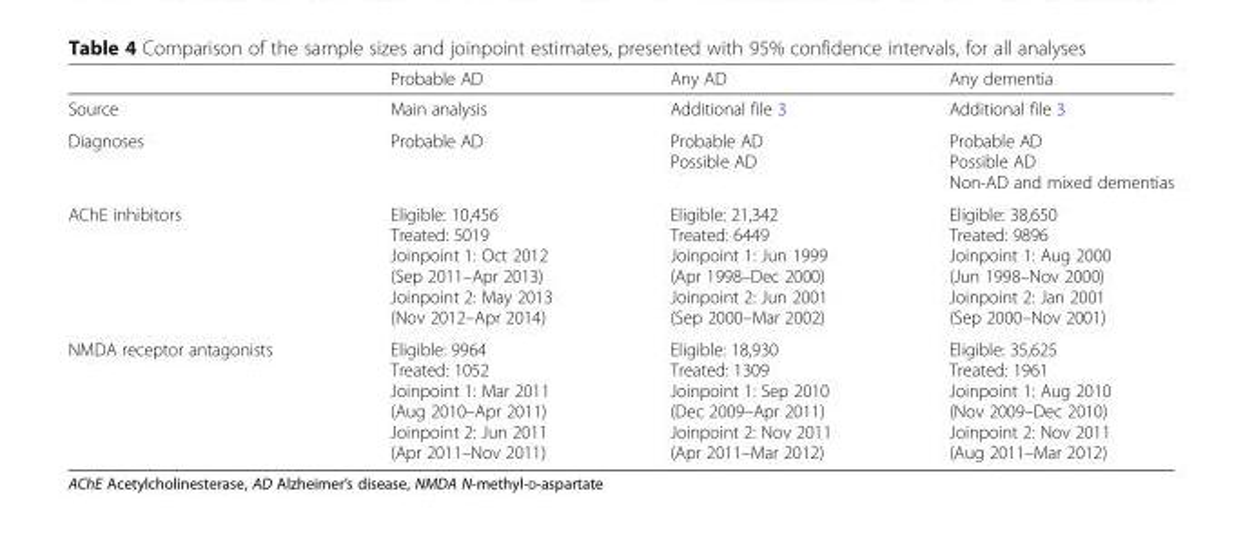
<table><thead><tr><td></td><td>Probable AD</td><td>Any AD</td><td>Any dementia</td></tr></thead><tbody><tr><td>Source</td><td>Main analysis</td><td>Additional file 3</td><td>Additional file 3</td></tr><tr><td>Diagnoses</td><td>Probable AD</td><td>Probable AD Possible AD</td><td>Probable AD Possible AD Non-AD and mixed dementias</td></tr><tr><td>AChE inhibitors</td><td>Eligible: 10,456 Treated: 5019 Joinpoint 1: Oct 2012 (Sep 2011–Apr 2013) Joinpoint 2: May 2013 (Nov 2012–Apr 2014)</td><td>Eligible: 21,342 Treated: 6449 Joinpoint 1: Jun 1999 (Apr 1998–Dec 2000) Joinpoint 2: Jun 2001 (Sep 2000–Mar 2002)</td><td>Eligible: 38,650 Treated: 9896 Joinpoint 1: Aug 2000 (Jun 1998–Nov 2000) Joinpoint 2: Jan 2001 (Sep 2000–Nov 2001)</td></tr><tr><td>NMDA receptor antagonists</td><td>Eligible: 9964 Treated: 1052 Joinpoint 1: Mar 2011 (Aug 2010–Apr 2011) Joinpoint 2: Jun 2011 (Apr 2011–Nov 2011)</td><td>Eligible: 18,930 Treated: 1309 Joinpoint 1: Sep 2010 (Dec 2009–Apr 2011) Joinpoint 2: Nov 2011 (Apr 2011–Mar 2012)</td><td>Eligible: 35,625 Treated: 1961 Joinpoint 1: Aug 2010 (Nov 2009–Dec 2010) Joinpoint 2: Nov 2011 (Aug 2011–Mar 2012)</td></tr></tbody></table>